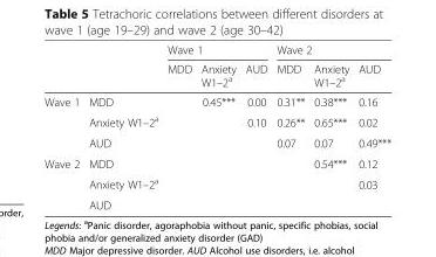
<table><thead><tr><td rowspan="2"></td><td rowspan="2"></td><td colspan="3">Wave 1</td><td colspan="3">Wave 2</td></tr><tr><td>MDD</td><td>Anxiety W1–2<sup>a</sup></td><td>AUD</td><td>MDD</td><td>Anxiety W1–2<sup>a</sup></td><td>AUD</td></tr></thead><tbody><tr><td rowspan="3">Wave 1</td><td>MDD</td><td></td><td>0.45***</td><td>0.00</td><td>0.31**</td><td>0.38***</td><td>0.16</td></tr><tr><td>Anxiety W1–2<sup>a</sup></td><td></td><td></td><td>0.10</td><td>0.26**</td><td>0.65***</td><td>0.02</td></tr><tr><td>AUD</td><td></td><td></td><td></td><td>0.07</td><td>0.07</td><td>0.49***</td></tr><tr><td rowspan="3">Wave 2</td><td>MDD</td><td></td><td></td><td></td><td></td><td>0.54***</td><td>0.12</td></tr><tr><td>Anxiety W1–2<sup>a</sup></td><td></td><td></td><td></td><td></td><td></td><td>0.03</td></tr><tr><td>AUD</td><td></td><td></td><td></td><td></td><td></td><td></td></tr></tbody></table>